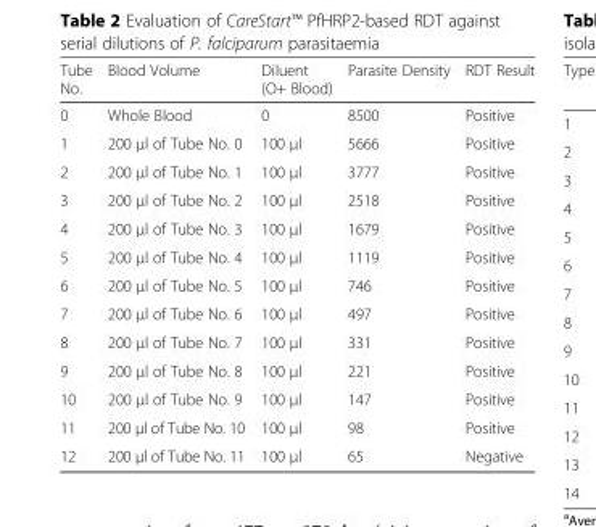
<table><thead><tr><td>Tube No.</td><td>Blood Volume</td><td>Diluent (O+ Blood)</td><td>Parasite Density</td><td>RDT Result</td></tr></thead><tbody><tr><td>0</td><td>Whole Blood</td><td>0</td><td>8500</td><td>Positive</td></tr><tr><td>1</td><td>200 μl of Tube No. 0</td><td>100 μl</td><td>5666</td><td>Positive</td></tr><tr><td>2</td><td>200 μl of Tube No. 1</td><td>100 μl</td><td>3777</td><td>Positive</td></tr><tr><td>3</td><td>200 μl of Tube No. 2</td><td>100 μl</td><td>2518</td><td>Positive</td></tr><tr><td>4</td><td>200 μl of Tube No. 3</td><td>100 μl</td><td>1679</td><td>Positive</td></tr><tr><td>5</td><td>200 μl of Tube No. 4</td><td>100 μl</td><td>1119</td><td>Positive</td></tr><tr><td>6</td><td>200 μl of Tube No. 5</td><td>100 μl</td><td>746</td><td>Positive</td></tr><tr><td>7</td><td>200 μl of Tube No. 6</td><td>100 μl</td><td>497</td><td>Positive</td></tr><tr><td>8</td><td>200 μl of Tube No. 7</td><td>100 μl</td><td>331</td><td>Positive</td></tr><tr><td>9</td><td>200 μl of Tube No. 8</td><td>100 μl</td><td>221</td><td>Positive</td></tr><tr><td>10</td><td>200 μl of Tube No. 9</td><td>100 μl</td><td>147</td><td>Positive</td></tr><tr><td>11</td><td>200 μl of Tube No. 10</td><td>100 μl</td><td>98</td><td>Positive</td></tr><tr><td>12</td><td>200 μl of Tube No. 11</td><td>100 μl</td><td>65</td><td>Negative</td></tr></tbody></table>